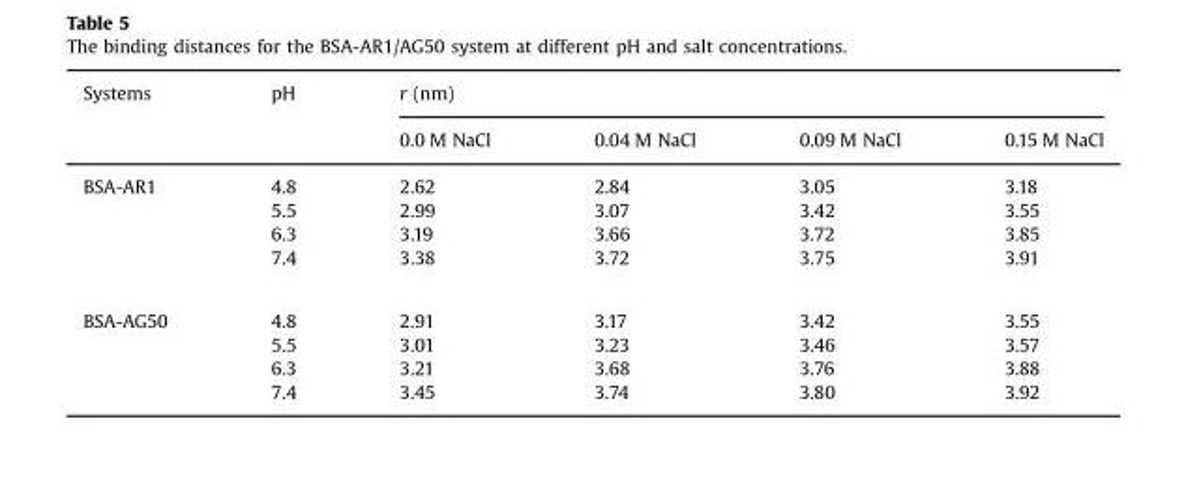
<table><thead><tr><td rowspan="2">Systems</td><td rowspan="2">pH</td><td colspan="4">r (nm)</td></tr><tr><td>0.0 M NaCl</td><td>0.04 M NaCl</td><td>0.09 M NaCl</td><td>0.15 M NaCl</td></tr></thead><tbody><tr><td rowspan="4">BSA-AR1</td><td>4.8</td><td>2.62</td><td>2.84</td><td>3.05</td><td>3.18</td></tr><tr><td>5.5</td><td>2.99</td><td>3.07</td><td>3.42</td><td>3.55</td></tr><tr><td>6.3</td><td>3.19</td><td>3.66</td><td>3.72</td><td>3.85</td></tr><tr><td>7.4</td><td>3.38</td><td>3.72</td><td>3.75</td><td>3.91</td></tr><tr><td rowspan="4">BSA-AG50</td><td>4.8</td><td>2.91</td><td>3.17</td><td>3.42</td><td>3.55</td></tr><tr><td>5.5</td><td>3.01</td><td>3.23</td><td>3.46</td><td>3.57</td></tr><tr><td>6.3</td><td>3.21</td><td>3.68</td><td>3.76</td><td>3.88</td></tr><tr><td>7.4</td><td>3.45</td><td>3.74</td><td>3.80</td><td>3.92</td></tr></tbody></table>